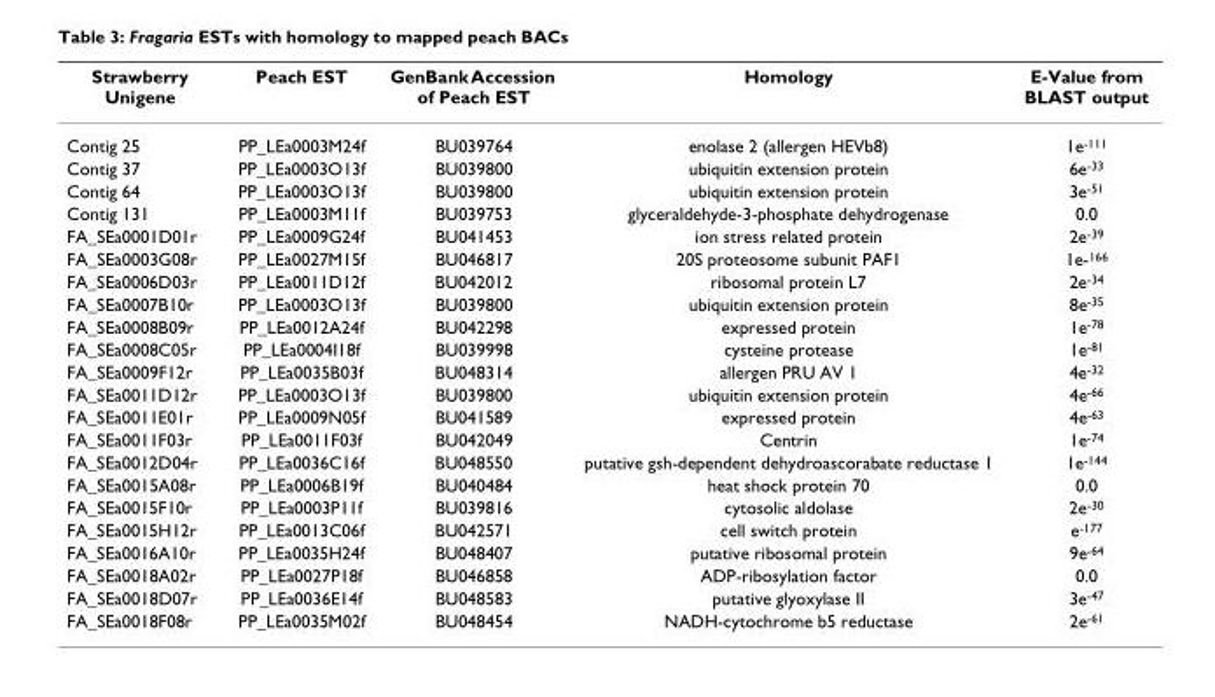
<table><thead><tr><td>Strawberry Unigene</td><td>Peach EST</td><td>GenBank Accession of Peach EST</td><td>Homology</td><td>E-Value from BLAST output</td></tr></thead><tbody><tr><td>Contig 25</td><td>PP_LEa0003M24f</td><td>BU039764</td><td>enolase 2 (allergen HEVb8)</td><td>1e-111</td></tr><tr><td>Contig 37</td><td>PP_LEa0003O13f</td><td>BU039800</td><td>ubiquitin extension protein</td><td>6e-33</td></tr><tr><td>Contig 64</td><td>PP_LEa0003O13f</td><td>BU039800</td><td>ubiquitin extension protein</td><td>3e-51</td></tr><tr><td>Contig 131</td><td>PP_LEa0003M11f</td><td>BU039753</td><td>glyceraldehyde-3-phosphate dehydrogenase</td><td>0.0</td></tr><tr><td>FA_SEa0001D01r</td><td>PP_LEa0009G24f</td><td>BU041453</td><td>ion stress related protein</td><td>2e-39</td></tr><tr><td>FA_SEa0003G08r</td><td>PP_LEa0027M15f</td><td>BU046817</td><td>20S proteosome subunit PAF1</td><td>1e-166</td></tr><tr><td>FA_SEa0006D03r</td><td>PP_LEa0011D12f</td><td>BU042012</td><td>ribosomal protein L7</td><td>2e-34</td></tr><tr><td>FA_SEa0007B10r</td><td>PP_LEa0003O13f</td><td>BU039800</td><td>ubiquitin extension protein</td><td>8e-35</td></tr><tr><td>FA_SEa0008B09r</td><td>PP_LEa0012A24f</td><td>BU042298</td><td>expressed protein</td><td>1e-78</td></tr><tr><td>FA_SEa0008C05r</td><td>PP_LEa0004I18f</td><td>BU039998</td><td>cysteine protease</td><td>1e-81</td></tr><tr><td>FA_SEa0009F12r</td><td>PP_LEa0035B03f</td><td>BU048314</td><td>allergen PRU AV 1</td><td>4e-32</td></tr><tr><td>FA_SEa0011D12r</td><td>PP_LEa0003O13f</td><td>BU039800</td><td>ubiquitin extension protein</td><td>4e-66</td></tr><tr><td>FA_SEa0011E01r</td><td>PP_LEa0009N05f</td><td>BU041589</td><td>expressed protein</td><td>4e-63</td></tr><tr><td>FA_SEa0011F03r</td><td>PP_LEa0011F03f</td><td>BU042049</td><td>Centrin</td><td>1e-74</td></tr><tr><td>FA_SEa0012D04r</td><td>PP_LEa0036C16f</td><td>BU048550</td><td>putative gsh-dependent dehydroascorabate reductase 1</td><td>1e-144</td></tr><tr><td>FA_SEa0015A08r</td><td>PP_LEa0006B19f</td><td>BU040484</td><td>heat shock protein 70</td><td>0.0</td></tr><tr><td>FA_SEa0015F10r</td><td>PP_LEa0003P11f</td><td>BU039816</td><td>cytosolic aldolase</td><td>2e-30</td></tr><tr><td>FA_SEa0015H12r</td><td>PP_LEa0013C06f</td><td>BU042571</td><td>cell switch protein</td><td>e-177</td></tr><tr><td>FA_SEa0016A10r</td><td>PP_LEa0035H24f</td><td>BU048407</td><td>putative ribosomal protein</td><td>9e-64</td></tr><tr><td>FA_SEa0018A02r</td><td>PP_LEa0027P18f</td><td>BU046858</td><td>ADP-ribosylation factor</td><td>0.0</td></tr><tr><td>FA_SEa0018D07r</td><td>PP_LEa0036E14f</td><td>BU048583</td><td>putative glyoxylase II</td><td>3e-47</td></tr><tr><td>FA_SEa0018F08r</td><td>PP_LEa0035M02f</td><td>BU048454</td><td>NADH-cytochrome b5 reductase</td><td>2e-61</td></tr></tbody></table>